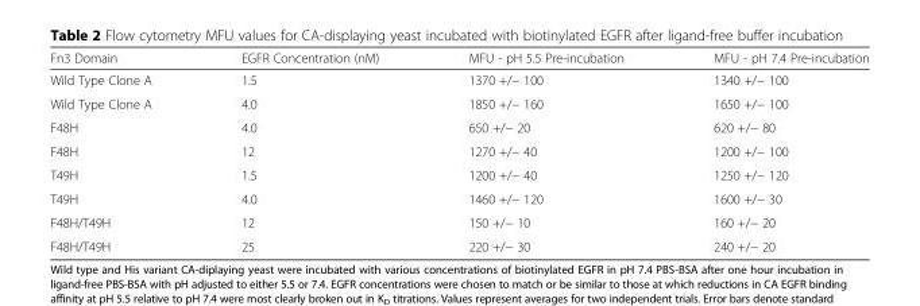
<table><thead><tr><td>Fn3 Domain</td><td>EGFR Concentration (nM)</td><td>MFU - pH 5.5 Pre-incubation</td><td>MFU - pH 7.4 Pre-incubation</td></tr></thead><tbody><tr><td>Wild Type Clone A</td><td>1.5</td><td>1370 +/− 100</td><td>1340 +/− 100</td></tr><tr><td>Wild Type Clone A</td><td>4.0</td><td>1850 +/− 160</td><td>1650 +/− 100</td></tr><tr><td>F48H</td><td>4.0</td><td>650 +/− 20</td><td>620 +/− 80</td></tr><tr><td>F48H</td><td>12</td><td>1270 +/− 40</td><td>1200 +/− 100</td></tr><tr><td>T49H</td><td>1.5</td><td>1200 +/− 40</td><td>1250 +/− 120</td></tr><tr><td>T49H</td><td>4.0</td><td>1460 +/− 120</td><td>1600 +/− 30</td></tr><tr><td>F48H/T49H</td><td>12</td><td>150 +/− 10</td><td>160 +/− 20</td></tr><tr><td>F48H/T49H</td><td>25</td><td>220 +/− 30</td><td>240 +/− 20</td></tr></tbody></table>